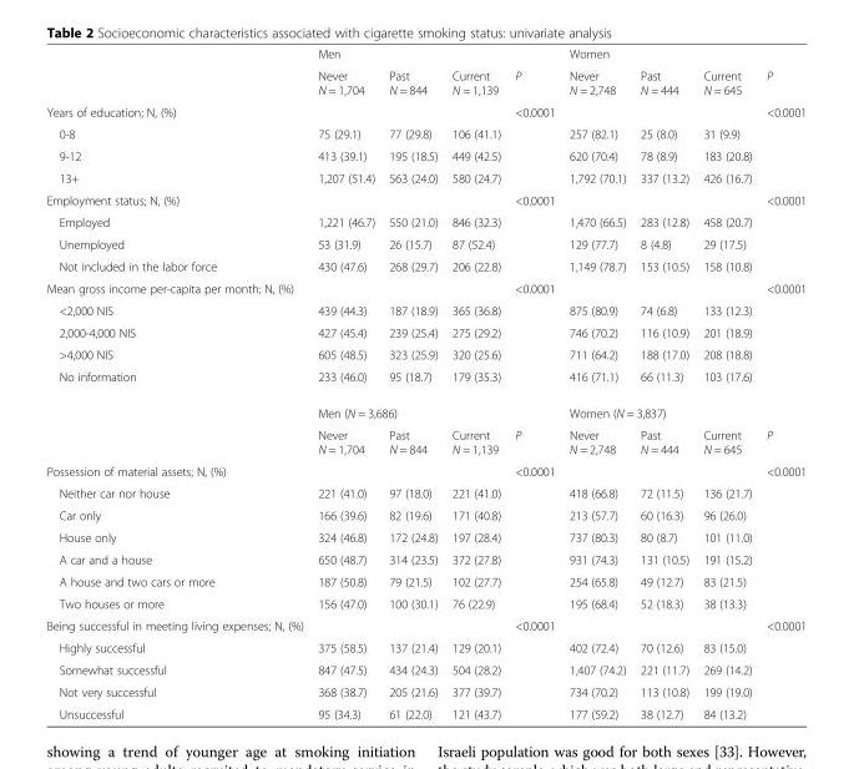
<table><thead><tr><td rowspan="2"></td><td colspan="4">Men</td><td colspan="4">Women</td></tr><tr><td>Never N = 1,704</td><td>Past N = 844</td><td>Current N = 1,139</td><td>P</td><td>Never N = 2,748</td><td>Past N = 444</td><td>Current N = 645</td><td>P</td></tr></thead><tbody><tr><td>Years of education; N, (%)</td><td></td><td></td><td></td><td>&lt;0.0001</td><td></td><td></td><td></td><td>&lt;0.0001</td></tr><tr><td>0-8</td><td>75 (29.1)</td><td>77 (29.8)</td><td>106 (41.1)</td><td></td><td>257 (82.1)</td><td>25 (8.0)</td><td>31 (9.9)</td><td></td></tr><tr><td>9-12</td><td>413 (39.1)</td><td>195 (18.5)</td><td>449 (42.5)</td><td></td><td>620 (70.4)</td><td>78 (8.9)</td><td>183 (20.8)</td><td></td></tr><tr><td>13+</td><td>1,207 (51.4)</td><td>563 (24.0)</td><td>580 (24.7)</td><td></td><td>1,792 (70.1)</td><td>337 (13.2)</td><td>426 (16.7)</td><td></td></tr><tr><td>Employment status; N, (%)</td><td></td><td></td><td></td><td>&lt;0.0001</td><td></td><td></td><td></td><td>&lt;0.0001</td></tr><tr><td>Employed</td><td>1,221 (46.7)</td><td>550 (21.0)</td><td>846 (32.3)</td><td></td><td>1,470 (66.5)</td><td>283 (12.8)</td><td>458 (20.7)</td><td></td></tr><tr><td>Unemployed</td><td>53 (31.9)</td><td>26 (15.7)</td><td>87 (52.4)</td><td></td><td>129 (77.7)</td><td>8 (4.8)</td><td>29 (17.5)</td><td></td></tr><tr><td>Not included in the labor force</td><td>430 (47.6)</td><td>268 (29.7)</td><td>206 (22.8)</td><td></td><td>1,149 (78.7)</td><td>153 (10.5)</td><td>158 (10.8)</td><td></td></tr><tr><td>Mean gross income per-capita per month; N, (%)</td><td></td><td></td><td></td><td>&lt;0.0001</td><td></td><td></td><td></td><td>&lt;0.0001</td></tr><tr><td>&lt;2,000 NIS</td><td>439 (44.3)</td><td>187 (18.9)</td><td>365 (36.8)</td><td></td><td>875 (80.9)</td><td>74 (6.8)</td><td>133 (12.3)</td><td></td></tr><tr><td>2,000-4,000 NIS</td><td>427 (45.4)</td><td>239 (25.4)</td><td>275 (29.2)</td><td></td><td>746 (70.2)</td><td>116 (10.9)</td><td>201 (18.9)</td><td></td></tr><tr><td>&gt;4,000 NIS</td><td>605 (48.5)</td><td>323 (25.9)</td><td>320 (25.6)</td><td></td><td>711 (64.2)</td><td>188 (17.0)</td><td>208 (18.8)</td><td></td></tr><tr><td rowspan="3">No information</td><td>233 (46.0)</td><td>95 (18.7)</td><td>179 (35.3)</td><td></td><td>416 (71.1)</td><td>66 (11.3)</td><td>103 (17.6)</td><td></td></tr><tr><td colspan="4">Men (N = 3,686)</td><td colspan="4">Women (N = 3,837)</td></tr><tr><td>Never N = 1,704</td><td>Past N = 844</td><td>Current N = 1,139</td><td>P</td><td>Never N = 2,748</td><td>Past N = 444</td><td>Current N = 645</td><td>P</td></tr><tr><td>Possession of material assets; N, (%)</td><td></td><td></td><td></td><td>&lt;0.0001</td><td></td><td></td><td></td><td>&lt;0.0001</td></tr><tr><td>Neither car nor house</td><td>221 (41.0)</td><td>97 (18.0)</td><td>221 (41.0)</td><td></td><td>418 (66.8)</td><td>72 (11.5)</td><td>136 (21.7)</td><td></td></tr><tr><td>Car only</td><td>166 (39.6)</td><td>82 (19.6)</td><td>171 (40.8)</td><td></td><td>213 (57.7)</td><td>60 (16.3)</td><td>96 (26.0)</td><td></td></tr><tr><td>House only</td><td>324 (46.8)</td><td>172 (24.8)</td><td>197 (28.4)</td><td></td><td>737 (80.3)</td><td>80 (8.7)</td><td>101 (11.0)</td><td></td></tr><tr><td>A car and a house</td><td>650 (48.7)</td><td>314 (23.5)</td><td>372 (27.8)</td><td></td><td>931 (74.3)</td><td>131 (10.5)</td><td>191 (15.2)</td><td></td></tr><tr><td>A house and two cars or more</td><td>187 (50.8)</td><td>79 (21.5)</td><td>102 (27.7)</td><td></td><td>254 (65.8)</td><td>49 (12.7)</td><td>83 (21.5)</td><td></td></tr><tr><td>Two houses or more</td><td>156 (47.0)</td><td>100 (30.1)</td><td>76 (22.9)</td><td></td><td>195 (68.4)</td><td>52 (18.3)</td><td>38 (13.3)</td><td></td></tr><tr><td>Being successful in meeting living expenses; N, (%)</td><td></td><td></td><td></td><td>&lt;0.0001</td><td></td><td></td><td></td><td>&lt;0.0001</td></tr><tr><td>Highly successful</td><td>375 (58.5)</td><td>137 (21.4)</td><td>129 (20.1)</td><td></td><td>402 (72.4)</td><td>70 (12.6)</td><td>83 (15.0)</td><td></td></tr><tr><td>Somewhat successful</td><td>847 (47.5)</td><td>434 (24.3)</td><td>504 (28.2)</td><td></td><td>1,407 (74.2)</td><td>221 (11.7)</td><td>269 (14.2)</td><td></td></tr><tr><td>Not very successful</td><td>368 (38.7)</td><td>205 (21.6)</td><td>377 (39.7)</td><td></td><td>734 (70.2)</td><td>113 (10.8)</td><td>199 (19.0)</td><td></td></tr><tr><td>Unsuccessful</td><td>95 (34.3)</td><td>61 (22.0)</td><td>121 (43.7)</td><td></td><td>177 (59.2)</td><td>38 (12.7)</td><td>84 (13.2)</td><td></td></tr></tbody></table>